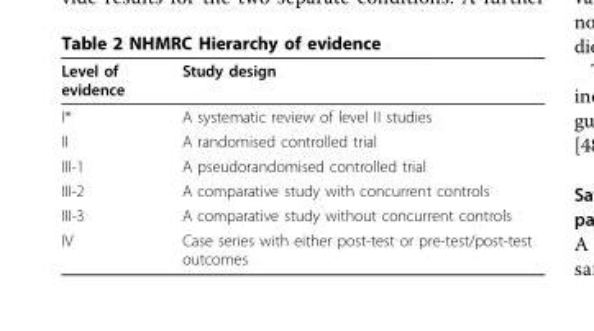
<table><thead><tr><td>Level of evidence</td><td>Study design</td></tr></thead><tbody><tr><td>I*</td><td>A systematic review of level II studies</td></tr><tr><td>II</td><td>A randomised controlled trial</td></tr><tr><td>III-1</td><td>A pseudorandomised controlled trial</td></tr><tr><td>III-2</td><td>A comparative study with concurrent controls</td></tr><tr><td>III-3</td><td>A comparative study without concurrent controls</td></tr><tr><td>IV</td><td>Case series with either post-test or pre-test/post-test outcomes</td></tr></tbody></table>